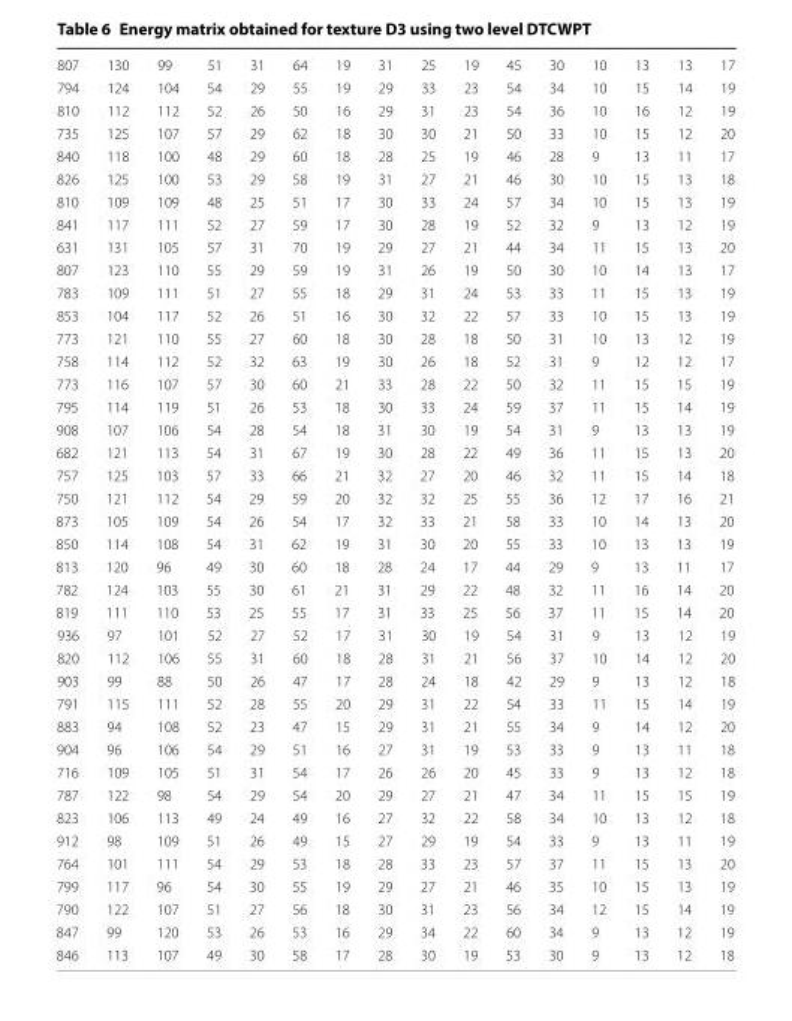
<table><tbody><tr><td>807</td><td>130</td><td>99</td><td>51</td><td>31</td><td>64</td><td>19</td><td>31</td><td>25</td><td>19</td><td>45</td><td>30</td><td>10</td><td>13</td><td>13</td><td>17</td></tr><tr><td>794</td><td>124</td><td>104</td><td>54</td><td>29</td><td>55</td><td>19</td><td>29</td><td>33</td><td>23</td><td>54</td><td>34</td><td>10</td><td>15</td><td>14</td><td>19</td></tr><tr><td>810</td><td>112</td><td>112</td><td>52</td><td>26</td><td>50</td><td>16</td><td>29</td><td>31</td><td>23</td><td>54</td><td>36</td><td>10</td><td>16</td><td>12</td><td>19</td></tr><tr><td>735</td><td>125</td><td>107</td><td>57</td><td>29</td><td>62</td><td>18</td><td>30</td><td>30</td><td>21</td><td>50</td><td>33</td><td>10</td><td>15</td><td>12</td><td>20</td></tr><tr><td>840</td><td>118</td><td>100</td><td>48</td><td>29</td><td>60</td><td>18</td><td>28</td><td>25</td><td>19</td><td>46</td><td>28</td><td>9</td><td>13</td><td>11</td><td>17</td></tr><tr><td>826</td><td>125</td><td>100</td><td>53</td><td>29</td><td>58</td><td>19</td><td>31</td><td>27</td><td>21</td><td>46</td><td>30</td><td>10</td><td>15</td><td>13</td><td>18</td></tr><tr><td>810</td><td>109</td><td>109</td><td>48</td><td>25</td><td>51</td><td>17</td><td>30</td><td>33</td><td>24</td><td>57</td><td>34</td><td>10</td><td>15</td><td>13</td><td>19</td></tr><tr><td>841</td><td>117</td><td>111</td><td>52</td><td>27</td><td>59</td><td>17</td><td>30</td><td>28</td><td>19</td><td>52</td><td>32</td><td>9</td><td>13</td><td>12</td><td>19</td></tr><tr><td>631</td><td>131</td><td>105</td><td>57</td><td>31</td><td>70</td><td>19</td><td>29</td><td>27</td><td>21</td><td>44</td><td>34</td><td>11</td><td>15</td><td>13</td><td>20</td></tr><tr><td>807</td><td>123</td><td>110</td><td>55</td><td>29</td><td>59</td><td>19</td><td>31</td><td>26</td><td>19</td><td>50</td><td>30</td><td>10</td><td>14</td><td>13</td><td>17</td></tr><tr><td>783</td><td>109</td><td>111</td><td>51</td><td>27</td><td>55</td><td>18</td><td>29</td><td>31</td><td>24</td><td>53</td><td>33</td><td>11</td><td>15</td><td>13</td><td>19</td></tr><tr><td>853</td><td>104</td><td>117</td><td>52</td><td>26</td><td>51</td><td>16</td><td>30</td><td>32</td><td>22</td><td>57</td><td>33</td><td>10</td><td>15</td><td>13</td><td>19</td></tr><tr><td>773</td><td>121</td><td>110</td><td>55</td><td>27</td><td>60</td><td>18</td><td>30</td><td>28</td><td>18</td><td>50</td><td>31</td><td>10</td><td>13</td><td>12</td><td>19</td></tr><tr><td>758</td><td>114</td><td>112</td><td>52</td><td>32</td><td>63</td><td>19</td><td>30</td><td>26</td><td>18</td><td>52</td><td>31</td><td>9</td><td>12</td><td>12</td><td>17</td></tr><tr><td>773</td><td>116</td><td>107</td><td>57</td><td>30</td><td>60</td><td>21</td><td>33</td><td>28</td><td>22</td><td>50</td><td>32</td><td>11</td><td>15</td><td>15</td><td>19</td></tr><tr><td>795</td><td>114</td><td>119</td><td>51</td><td>26</td><td>53</td><td>18</td><td>30</td><td>33</td><td>24</td><td>59</td><td>37</td><td>11</td><td>15</td><td>14</td><td>19</td></tr><tr><td>908</td><td>107</td><td>106</td><td>54</td><td>28</td><td>54</td><td>18</td><td>31</td><td>30</td><td>19</td><td>54</td><td>31</td><td>9</td><td>13</td><td>13</td><td>19</td></tr><tr><td>682</td><td>121</td><td>113</td><td>54</td><td>31</td><td>67</td><td>19</td><td>30</td><td>28</td><td>22</td><td>49</td><td>36</td><td>11</td><td>15</td><td>13</td><td>20</td></tr><tr><td>757</td><td>125</td><td>103</td><td>57</td><td>33</td><td>66</td><td>21</td><td>32</td><td>27</td><td>20</td><td>46</td><td>32</td><td>11</td><td>15</td><td>14</td><td>18</td></tr><tr><td>750</td><td>121</td><td>112</td><td>54</td><td>29</td><td>59</td><td>20</td><td>32</td><td>32</td><td>25</td><td>55</td><td>36</td><td>12</td><td>17</td><td>16</td><td>21</td></tr><tr><td>873</td><td>105</td><td>109</td><td>54</td><td>26</td><td>54</td><td>17</td><td>32</td><td>33</td><td>21</td><td>58</td><td>33</td><td>10</td><td>14</td><td>13</td><td>20</td></tr><tr><td>850</td><td>114</td><td>108</td><td>54</td><td>31</td><td>62</td><td>19</td><td>31</td><td>30</td><td>20</td><td>55</td><td>33</td><td>10</td><td>13</td><td>13</td><td>19</td></tr><tr><td>813</td><td>120</td><td>96</td><td>49</td><td>30</td><td>60</td><td>18</td><td>28</td><td>24</td><td>17</td><td>44</td><td>29</td><td>9</td><td>13</td><td>11</td><td>17</td></tr><tr><td>782</td><td>124</td><td>103</td><td>55</td><td>30</td><td>61</td><td>21</td><td>31</td><td>29</td><td>22</td><td>48</td><td>32</td><td>11</td><td>16</td><td>14</td><td>20</td></tr><tr><td>819</td><td>111</td><td>110</td><td>53</td><td>25</td><td>55</td><td>17</td><td>31</td><td>33</td><td>25</td><td>56</td><td>37</td><td>11</td><td>15</td><td>14</td><td>20</td></tr><tr><td>936</td><td>97</td><td>101</td><td>52</td><td>27</td><td>52</td><td>17</td><td>31</td><td>30</td><td>19</td><td>54</td><td>31</td><td>9</td><td>13</td><td>12</td><td>19</td></tr><tr><td>820</td><td>112</td><td>106</td><td>55</td><td>31</td><td>60</td><td>18</td><td>28</td><td>31</td><td>21</td><td>56</td><td>37</td><td>10</td><td>14</td><td>12</td><td>20</td></tr><tr><td>903</td><td>99</td><td>88</td><td>50</td><td>26</td><td>47</td><td>17</td><td>28</td><td>24</td><td>18</td><td>42</td><td>29</td><td>9</td><td>13</td><td>12</td><td>18</td></tr><tr><td>791</td><td>115</td><td>111</td><td>52</td><td>28</td><td>55</td><td>20</td><td>29</td><td>31</td><td>22</td><td>54</td><td>33</td><td>11</td><td>15</td><td>14</td><td>19</td></tr><tr><td>883</td><td>94</td><td>108</td><td>52</td><td>23</td><td>47</td><td>15</td><td>29</td><td>31</td><td>21</td><td>55</td><td>34</td><td>9</td><td>14</td><td>12</td><td>20</td></tr><tr><td>904</td><td>96</td><td>106</td><td>54</td><td>29</td><td>51</td><td>16</td><td>27</td><td>31</td><td>19</td><td>53</td><td>33</td><td>9</td><td>13</td><td>11</td><td>18</td></tr><tr><td>716</td><td>109</td><td>105</td><td>51</td><td>31</td><td>54</td><td>17</td><td>26</td><td>26</td><td>20</td><td>45</td><td>33</td><td>9</td><td>13</td><td>12</td><td>18</td></tr><tr><td>787</td><td>122</td><td>98</td><td>54</td><td>29</td><td>54</td><td>20</td><td>29</td><td>27</td><td>21</td><td>47</td><td>34</td><td>11</td><td>15</td><td>15</td><td>19</td></tr><tr><td>823</td><td>106</td><td>113</td><td>49</td><td>24</td><td>49</td><td>16</td><td>27</td><td>32</td><td>22</td><td>58</td><td>34</td><td>10</td><td>13</td><td>12</td><td>18</td></tr><tr><td>912</td><td>98</td><td>109</td><td>51</td><td>26</td><td>49</td><td>15</td><td>27</td><td>29</td><td>19</td><td>54</td><td>33</td><td>9</td><td>13</td><td>11</td><td>19</td></tr><tr><td>764</td><td>101</td><td>111</td><td>54</td><td>29</td><td>53</td><td>18</td><td>28</td><td>33</td><td>23</td><td>57</td><td>37</td><td>11</td><td>15</td><td>13</td><td>20</td></tr><tr><td>799</td><td>117</td><td>96</td><td>54</td><td>30</td><td>55</td><td>19</td><td>29</td><td>27</td><td>21</td><td>46</td><td>35</td><td>10</td><td>15</td><td>13</td><td>19</td></tr><tr><td>790</td><td>122</td><td>107</td><td>51</td><td>27</td><td>56</td><td>18</td><td>30</td><td>31</td><td>23</td><td>56</td><td>34</td><td>12</td><td>15</td><td>14</td><td>19</td></tr><tr><td>847</td><td>99</td><td>120</td><td>53</td><td>26</td><td>53</td><td>16</td><td>29</td><td>34</td><td>22</td><td>60</td><td>34</td><td>9</td><td>13</td><td>12</td><td>19</td></tr><tr><td>846</td><td>113</td><td>107</td><td>49</td><td>30</td><td>58</td><td>17</td><td>28</td><td>30</td><td>19</td><td>53</td><td>30</td><td>9</td><td>13</td><td>12</td><td>18</td></tr></tbody></table>